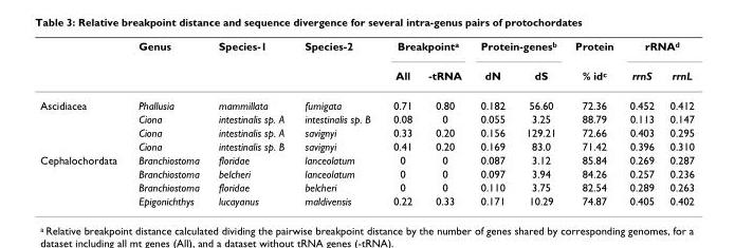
<table><thead><tr><td rowspan="2"></td><td rowspan="2">Genus</td><td rowspan="2">Species-1</td><td rowspan="2">Species-2</td><td colspan="2">Breakpoint<sup>a</sup></td><td colspan="2">Protein-genes<sup>b</sup></td><td rowspan="2">Protein % id<sup>c</sup></td><td colspan="2">rRNA<sup>d</sup></td></tr><tr><td>All</td><td>-tRNA</td><td>dN</td><td>dS</td><td>rrnS</td><td>rrnL</td></tr></thead><tbody><tr><td rowspan="4">Ascidiacea</td><td>Phallusia</td><td>mammillata</td><td>fumigata</td><td>0.71</td><td>0.80</td><td>0.182</td><td>56.60</td><td>72.36</td><td>0.452</td><td>0.412</td></tr><tr><td>Ciona</td><td>intestinalis sp. A</td><td>intestinalis sp. B</td><td>0.08</td><td>0</td><td>0.055</td><td>3.25</td><td>88.79</td><td>0.113</td><td>0.147</td></tr><tr><td>Ciona</td><td>intestinalis sp. A</td><td>savignyi</td><td>0.33</td><td>0.20</td><td>0.156</td><td>129.21</td><td>72.66</td><td>0.403</td><td>0.295</td></tr><tr><td>Ciona</td><td>intestinalis sp. B</td><td>savignyi</td><td>0.41</td><td>0.20</td><td>0.169</td><td>83.0</td><td>71.42</td><td>0.396</td><td>0.310</td></tr><tr><td rowspan="4">Cephalochordata</td><td>Branchiostoma</td><td>floridae</td><td>lanceolatum</td><td>0</td><td>0</td><td>0.087</td><td>3.12</td><td>85.84</td><td>0.269</td><td>0.287</td></tr><tr><td>Branchiostoma</td><td>belcheri</td><td>lanceolatum</td><td>0</td><td>0</td><td>0.097</td><td>3.94</td><td>84.26</td><td>0.257</td><td>0.236</td></tr><tr><td>Branchiostoma</td><td>floridae</td><td>belcheri</td><td>0</td><td>0</td><td>0.110</td><td>3.75</td><td>82.54</td><td>0.289</td><td>0.263</td></tr><tr><td>Epigonichthys</td><td>lucayanus</td><td>maldivensis</td><td>0.22</td><td>0.33</td><td>0.171</td><td>10.29</td><td>74.87</td><td>0.405</td><td>0.402</td></tr></tbody></table>